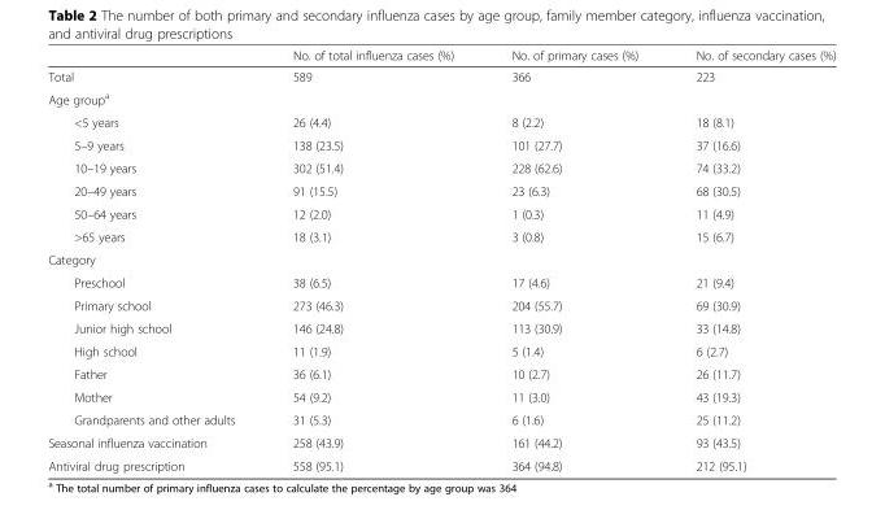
<table><thead><tr><td></td><td>No. of total influenza cases (%)</td><td>No. of primary cases (%)</td><td>No. of secondary cases (%)</td></tr></thead><tbody><tr><td>Total</td><td>589</td><td>366</td><td>223</td></tr><tr><td colspan="4">Age group<sup>a</sup></td></tr><tr><td>&lt;5 years</td><td>26 (4.4)</td><td>8 (2.2)</td><td>18 (8.1)</td></tr><tr><td>5–9 years</td><td>138 (23.5)</td><td>101 (27.7)</td><td>37 (16.6)</td></tr><tr><td>10–19 years</td><td>302 (51.4)</td><td>228 (62.6)</td><td>74 (33.2)</td></tr><tr><td>20–49 years</td><td>91 (15.5)</td><td>23 (6.3)</td><td>68 (30.5)</td></tr><tr><td>50–64 years</td><td>12 (2.0)</td><td>1 (0.3)</td><td>11 (4.9)</td></tr><tr><td>&gt;65 years</td><td>18 (3.1)</td><td>3 (0.8)</td><td>15 (6.7)</td></tr><tr><td colspan="4">Category</td></tr><tr><td>Preschool</td><td>38 (6.5)</td><td>17 (4.6)</td><td>21 (9.4)</td></tr><tr><td>Primary school</td><td>273 (46.3)</td><td>204 (55.7)</td><td>69 (30.9)</td></tr><tr><td>Junior high school</td><td>146 (24.8)</td><td>113 (30.9)</td><td>33 (14.8)</td></tr><tr><td>High school</td><td>11 (1.9)</td><td>5 (1.4)</td><td>6 (2.7)</td></tr><tr><td>Father</td><td>36 (6.1)</td><td>10 (2.7)</td><td>26 (11.7)</td></tr><tr><td>Mother</td><td>54 (9.2)</td><td>11 (3.0)</td><td>43 (19.3)</td></tr><tr><td>Grandparents and other adults</td><td>31 (5.3)</td><td>6 (1.6)</td><td>25 (11.2)</td></tr><tr><td>Seasonal influenza vaccination</td><td>258 (43.9)</td><td>161 (44.2)</td><td>93 (43.5)</td></tr><tr><td>Antiviral drug prescription</td><td>558 (95.1)</td><td>364 (94.8)</td><td>212 (95.1)</td></tr></tbody></table>